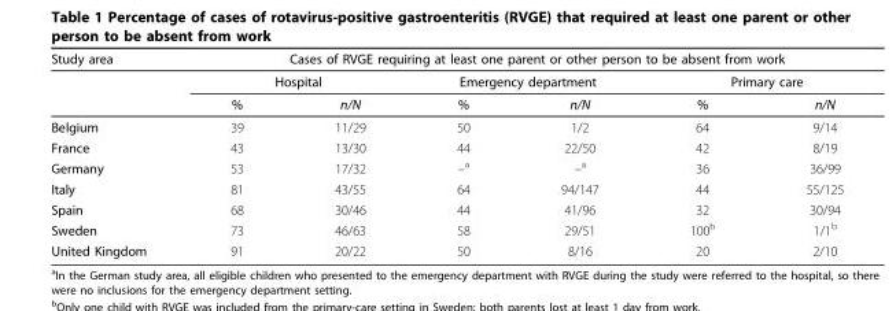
<table><thead><tr><td rowspan="3">Study area</td><td colspan="6">Cases of RVGE requiring at least one parent or other person to be absent from work</td></tr><tr><td colspan="2">Hospital</td><td colspan="2">Emergency department</td><td colspan="2">Primary care</td></tr><tr><td>%</td><td>n/N</td><td>%</td><td>n/N</td><td>%</td><td>n/N</td></tr></thead><tbody><tr><td>Belgium</td><td>39</td><td>11/29</td><td>50</td><td>1/2</td><td>64</td><td>9/14</td></tr><tr><td>France</td><td>43</td><td>13/30</td><td>44</td><td>22/50</td><td>42</td><td>8/19</td></tr><tr><td>Germany</td><td>53</td><td>17/32</td><td>–a</td><td>–a</td><td>36</td><td>36/99</td></tr><tr><td>Italy</td><td>81</td><td>43/55</td><td>64</td><td>94/147</td><td>44</td><td>55/125</td></tr><tr><td>Spain</td><td>68</td><td>30/46</td><td>44</td><td>41/96</td><td>32</td><td>30/94</td></tr><tr><td>Sweden</td><td>73</td><td>46/63</td><td>58</td><td>29/51</td><td>100<sup>b</sup></td><td>1/1<sup>b</sup></td></tr><tr><td>United Kingdom</td><td>91</td><td>20/22</td><td>50</td><td>8/16</td><td>20</td><td>2/10</td></tr></tbody></table>